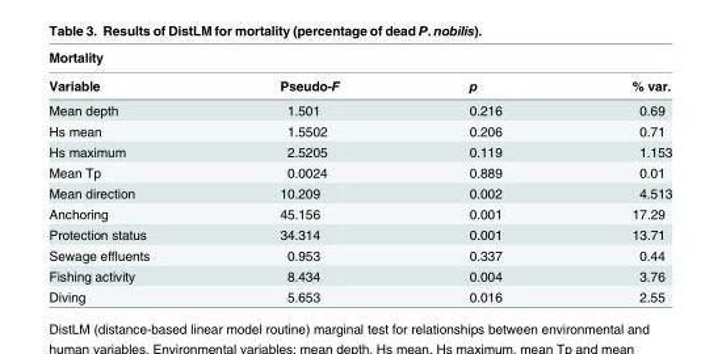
<table><thead><tr><td colspan="4">Mortality</td></tr><tr><td>Variable</td><td>Pseudo-F</td><td>p</td><td>% var.</td></tr></thead><tbody><tr><td>Mean depth</td><td>1.501</td><td>0.216</td><td>0.69</td></tr><tr><td>Hs mean</td><td>1.5502</td><td>0.206</td><td>0.71</td></tr><tr><td>Hs maximum</td><td>2.5205</td><td>0.119</td><td>1.153</td></tr><tr><td>Mean Tp</td><td>0.0024</td><td>0.889</td><td>0.01</td></tr><tr><td>Mean direction</td><td>10.209</td><td>0.002</td><td>4.513</td></tr><tr><td>Anchoring</td><td>45.156</td><td>0.001</td><td>17.29</td></tr><tr><td>Protection status</td><td>34.314</td><td>0.001</td><td>13.71</td></tr><tr><td>Sewage effluents</td><td>0.953</td><td>0.337</td><td>0.44</td></tr><tr><td>Fishing activity</td><td>8.434</td><td>0.004</td><td>3.76</td></tr><tr><td>Diving</td><td>5.653</td><td>0.016</td><td>2.55</td></tr></tbody></table>